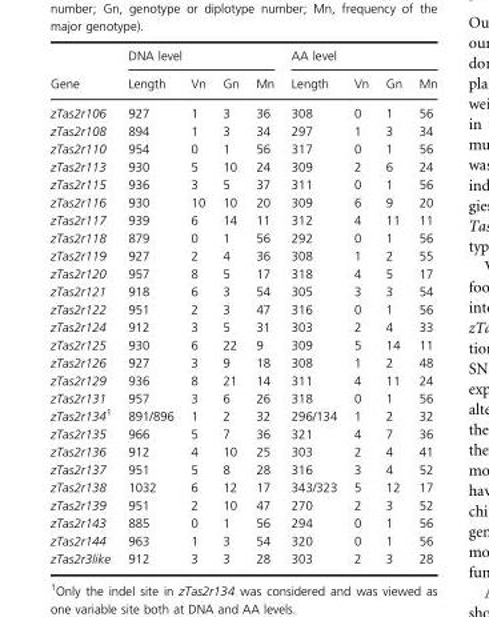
<table><thead><tr><td rowspan="2">Gene</td><td colspan="4">DNA level</td><td colspan="4">AA level</td></tr><tr><td>Length</td><td>Vn</td><td>Gn</td><td>Mn</td><td>Length</td><td>Vn</td><td>Gn</td><td>Mn</td></tr></thead><tbody><tr><td>zTas2r106</td><td>927</td><td>1</td><td>3</td><td>36</td><td>308</td><td>0</td><td>1</td><td>56</td></tr><tr><td>zTas2r108</td><td>894</td><td>1</td><td>3</td><td>34</td><td>297</td><td>1</td><td>3</td><td>34</td></tr><tr><td>zTas2r110</td><td>954</td><td>0</td><td>1</td><td>56</td><td>317</td><td>0</td><td>1</td><td>56</td></tr><tr><td>zTas2r113</td><td>930</td><td>5</td><td>10</td><td>24</td><td>309</td><td>2</td><td>6</td><td>24</td></tr><tr><td>zTas2r115</td><td>936</td><td>3</td><td>5</td><td>37</td><td>311</td><td>0</td><td>1</td><td>56</td></tr><tr><td>zTas2r116</td><td>930</td><td>10</td><td>10</td><td>20</td><td>309</td><td>6</td><td>9</td><td>20</td></tr><tr><td>zTas2r117</td><td>939</td><td>6</td><td>14</td><td>11</td><td>312</td><td>4</td><td>11</td><td>11</td></tr><tr><td>zTas2r118</td><td>879</td><td>0</td><td>1</td><td>56</td><td>292</td><td>0</td><td>1</td><td>56</td></tr><tr><td>zTas2r119</td><td>927</td><td>2</td><td>4</td><td>36</td><td>308</td><td>1</td><td>2</td><td>55</td></tr><tr><td>zTas2r120</td><td>957</td><td>8</td><td>5</td><td>17</td><td>318</td><td>4</td><td>5</td><td>17</td></tr><tr><td>zTas2r121</td><td>918</td><td>6</td><td>3</td><td>54</td><td>305</td><td>3</td><td>3</td><td>54</td></tr><tr><td>zTas2r122</td><td>951</td><td>2</td><td>3</td><td>47</td><td>316</td><td>0</td><td>1</td><td>56</td></tr><tr><td>zTas2r124</td><td>912</td><td>3</td><td>5</td><td>31</td><td>303</td><td>2</td><td>4</td><td>33</td></tr><tr><td>zTas2r125</td><td>930</td><td>6</td><td>22</td><td>9</td><td>309</td><td>5</td><td>14</td><td>11</td></tr><tr><td>zTas2r126</td><td>927</td><td>3</td><td>9</td><td>18</td><td>308</td><td>1</td><td>2</td><td>48</td></tr><tr><td>zTas2r129</td><td>936</td><td>8</td><td>21</td><td>14</td><td>311</td><td>4</td><td>11</td><td>24</td></tr><tr><td>zTas2r131</td><td>957</td><td>3</td><td>6</td><td>26</td><td>318</td><td>0</td><td>1</td><td>56</td></tr><tr><td>zTas2r1341</td><td>891/896</td><td>1</td><td>2</td><td>32</td><td>296/134</td><td>1</td><td>2</td><td>32</td></tr><tr><td>zTas2r135</td><td>966</td><td>5</td><td>7</td><td>36</td><td>321</td><td>4</td><td>7</td><td>36</td></tr><tr><td>zTas2r136</td><td>912</td><td>4</td><td>10</td><td>25</td><td>303</td><td>2</td><td>4</td><td>41</td></tr><tr><td>zTas2r137</td><td>951</td><td>5</td><td>8</td><td>28</td><td>316</td><td>3</td><td>4</td><td>52</td></tr><tr><td>zTas2r138</td><td>1032</td><td>6</td><td>12</td><td>17</td><td>343/323</td><td>5</td><td>12</td><td>17</td></tr><tr><td>zTas2r139</td><td>951</td><td>2</td><td>10</td><td>47</td><td>270</td><td>2</td><td>3</td><td>52</td></tr><tr><td>zTas2r143</td><td>885</td><td>0</td><td>1</td><td>56</td><td>294</td><td>0</td><td>1</td><td>56</td></tr><tr><td>zTas2r144</td><td>963</td><td>1</td><td>3</td><td>54</td><td>320</td><td>0</td><td>1</td><td>56</td></tr><tr><td>zTas2r3like</td><td>912</td><td>3</td><td>3</td><td>28</td><td>303</td><td>2</td><td>3</td><td>28</td></tr></tbody></table>